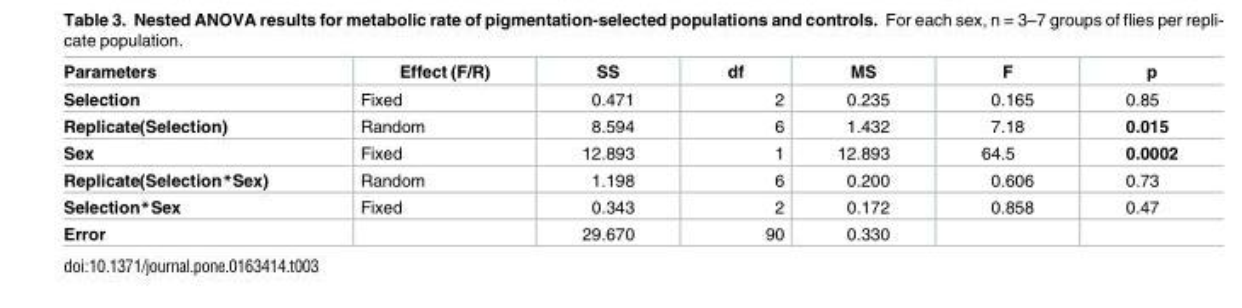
<table><thead><tr><td>Parameters</td><td>Effect (F/R)</td><td>SS</td><td>df</td><td>MS</td><td>F</td><td>p</td></tr></thead><tbody><tr><td>Selection</td><td>Fixed</td><td>0.471</td><td>2</td><td>0.235</td><td>0.165</td><td>0.85</td></tr><tr><td>Replicate(Selection)</td><td>Random</td><td>8.594</td><td>6</td><td>1.432</td><td>7.18</td><td>0.015</td></tr><tr><td>Sex</td><td>Fixed</td><td>12.893</td><td>1</td><td>12.893</td><td>64.5</td><td>0.0002</td></tr><tr><td>Replicate(Selection*Sex)</td><td>Random</td><td>1.198</td><td>6</td><td>0.200</td><td>0.606</td><td>0.73</td></tr><tr><td>Selection*Sex</td><td>Fixed</td><td>0.343</td><td>2</td><td>0.172</td><td>0.858</td><td>0.47</td></tr><tr><td>Error</td><td></td><td>29.670</td><td>90</td><td>0.330</td><td></td><td></td></tr></tbody></table>